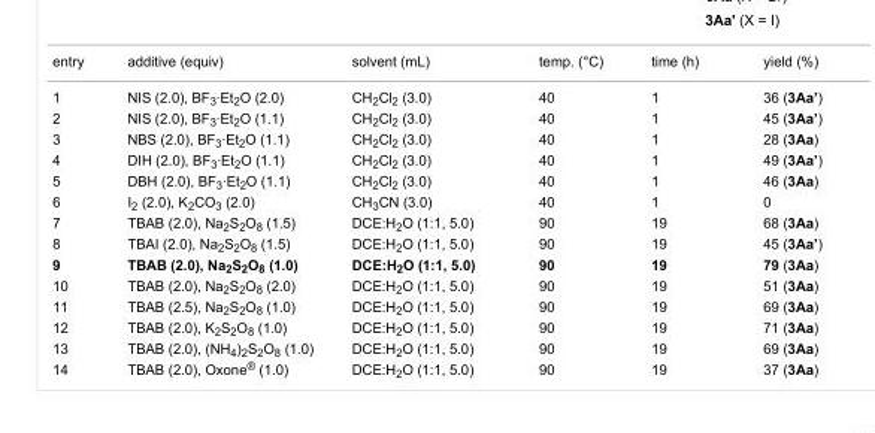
<table><tbody><tr><td>entry</td><td>additive (equiv)</td><td>solvent (mL)</td><td>temp. (°C)</td><td>time (h)</td><td>yield (%)</td></tr><tr><td>1</td><td>NIS (2.0), BF<sub>3</sub>·Et<sub>2</sub>O (2.0)</td><td>CH<sub>2</sub>Cl<sub>2</sub> (3.0)</td><td>40</td><td>1</td><td>36 (3Aa’)</td></tr><tr><td>2</td><td>NIS (2.0), BF<sub>3</sub>·Et<sub>2</sub>O (1.1)</td><td>CH<sub>2</sub>Cl<sub>2</sub> (3.0)</td><td>40</td><td>1</td><td>45 (3Aa’)</td></tr><tr><td>3</td><td>NBS (2.0), BF<sub>3</sub>·Et<sub>2</sub>O (1.1)</td><td>CH<sub>2</sub>Cl<sub>2</sub> (3.0)</td><td>40</td><td>1</td><td>28 (3Aa)</td></tr><tr><td>4</td><td>DIH (2.0), BF<sub>3</sub>·Et<sub>2</sub>O (1.1)</td><td>CH<sub>2</sub>Cl<sub>2</sub> (3.0)</td><td>40</td><td>1</td><td>49 (3Aa’)</td></tr><tr><td>5</td><td>DBH (2.0), BF<sub>3</sub>·Et<sub>2</sub>O (1.1)</td><td>CH<sub>2</sub>Cl<sub>2</sub> (3.0)</td><td>40</td><td>1</td><td>46 (3Aa)</td></tr><tr><td>6</td><td>I<sub>2</sub> (2.0), K<sub>2</sub>CO<sub>3</sub> (2.0)</td><td>CH<sub>3</sub>CN (3.0)</td><td>40</td><td>1</td><td>0</td></tr><tr><td>7</td><td>TBAB (2.0), Na<sub>2</sub>S<sub>2</sub>O<sub>8</sub> (1.5)</td><td>DCE:H<sub>2</sub>O (1:1, 5.0)</td><td>90</td><td>19</td><td>68 (3Aa)</td></tr><tr><td>8</td><td>TBAI (2.0), Na<sub>2</sub>S<sub>2</sub>O<sub>8</sub> (1.5)</td><td>DCE:H<sub>2</sub>O (1:1, 5.0)</td><td>90</td><td>19</td><td>45 (3Aa’)</td></tr><tr><td>9</td><td>TBAB (2.0), Na<sub>2</sub>S<sub>2</sub>O<sub>8</sub> (1.0)</td><td>DCE:H<sub>2</sub>O (1:1, 5.0)</td><td>90</td><td>19</td><td>79 (3Aa)</td></tr><tr><td>10</td><td>TBAB (2.0), Na<sub>2</sub>S<sub>2</sub>O<sub>8</sub> (2.0)</td><td>DCE:H<sub>2</sub>O (1:1, 5.0)</td><td>90</td><td>19</td><td>51 (3Aa)</td></tr><tr><td>11</td><td>TBAB (2.5), Na<sub>2</sub>S<sub>2</sub>O<sub>8</sub> (1.0)</td><td>DCE:H<sub>2</sub>O (1:1, 5.0)</td><td>90</td><td>19</td><td>69 (3Aa)</td></tr><tr><td>12</td><td>TBAB (2.0), K<sub>2</sub>S<sub>2</sub>O<sub>8</sub> (1.0)</td><td>DCE:H<sub>2</sub>O (1:1, 5.0)</td><td>90</td><td>19</td><td>71 (3Aa)</td></tr><tr><td>13</td><td>TBAB (2.0), (NH<sub>4</sub>)<sub>2</sub>S<sub>2</sub>O<sub>8</sub> (1.0)</td><td>DCE:H<sub>2</sub>O (1:1, 5.0)</td><td>90</td><td>19</td><td>69 (3Aa)</td></tr><tr><td>14</td><td>TBAB (2.0), Oxone<sup>®</sup> (1.0)</td><td>DCE:H<sub>2</sub>O (1:1, 5.0)</td><td>90</td><td>19</td><td>37 (3Aa)</td></tr></tbody></table>